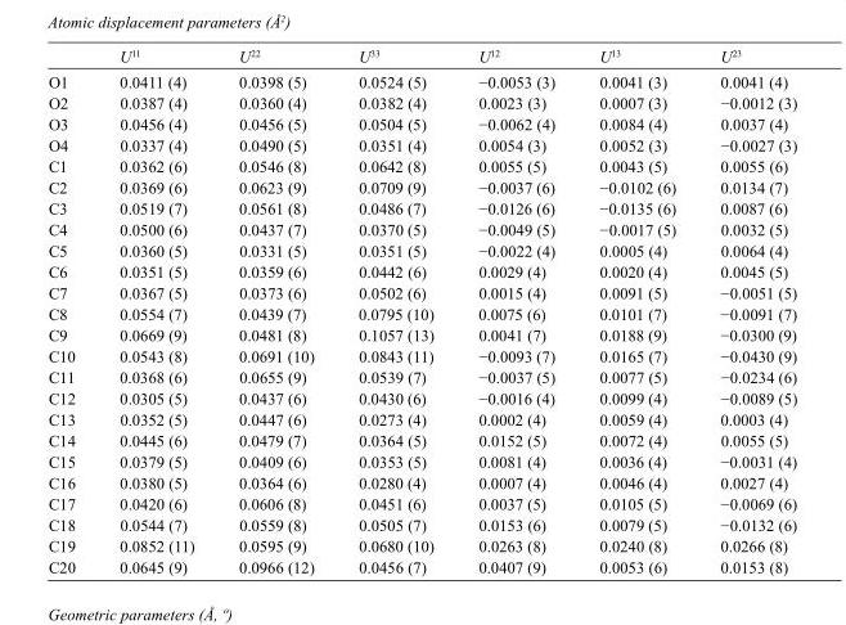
<table><thead><tr><td></td><td>U<sup>11</sup></td><td>U<sup>22</sup></td><td>U<sup>33</sup></td><td>U<sup>12</sup></td><td>U<sup>13</sup></td><td>U<sup>23</sup></td></tr></thead><tbody><tr><td>O1</td><td>0.0411 (4)</td><td>0.0398 (5)</td><td>0.0524 (5)</td><td>−0.0053 (3)</td><td>0.0041 (3)</td><td>0.0041 (4)</td></tr><tr><td>O2</td><td>0.0387 (4)</td><td>0.0360 (4)</td><td>0.0382 (4)</td><td>0.0023 (3)</td><td>0.0007 (3)</td><td>−0.0012 (3)</td></tr><tr><td>O3</td><td>0.0456 (4)</td><td>0.0456 (5)</td><td>0.0504 (5)</td><td>−0.0062 (4)</td><td>0.0084 (4)</td><td>0.0037 (4)</td></tr><tr><td>O4</td><td>0.0337 (4)</td><td>0.0490 (5)</td><td>0.0351 (4)</td><td>0.0054 (3)</td><td>0.0052 (3)</td><td>−0.0027 (3)</td></tr><tr><td>C1</td><td>0.0362 (6)</td><td>0.0546 (8)</td><td>0.0642 (8)</td><td>0.0055 (5)</td><td>0.0043 (5)</td><td>0.0055 (6)</td></tr><tr><td>C2</td><td>0.0369 (6)</td><td>0.0623 (9)</td><td>0.0709 (9)</td><td>−0.0037 (6)</td><td>−0.0102 (6)</td><td>0.0134 (7)</td></tr><tr><td>C3</td><td>0.0519 (7)</td><td>0.0561 (8)</td><td>0.0486 (7)</td><td>−0.0126 (6)</td><td>−0.0135 (6)</td><td>0.0087 (6)</td></tr><tr><td>C4</td><td>0.0500 (6)</td><td>0.0437 (7)</td><td>0.0370 (5)</td><td>−0.0049 (5)</td><td>−0.0017 (5)</td><td>0.0032 (5)</td></tr><tr><td>C5</td><td>0.0360 (5)</td><td>0.0331 (5)</td><td>0.0351 (5)</td><td>−0.0022 (4)</td><td>0.0005 (4)</td><td>0.0064 (4)</td></tr><tr><td>C6</td><td>0.0351 (5)</td><td>0.0359 (6)</td><td>0.0442 (6)</td><td>0.0029 (4)</td><td>0.0020 (4)</td><td>0.0045 (5)</td></tr><tr><td>C7</td><td>0.0367 (5)</td><td>0.0373 (6)</td><td>0.0502 (6)</td><td>0.0015 (4)</td><td>0.0091 (5)</td><td>−0.0051 (5)</td></tr><tr><td>C8</td><td>0.0554 (7)</td><td>0.0439 (7)</td><td>0.0795 (10)</td><td>0.0075 (6)</td><td>0.0101 (7)</td><td>−0.0091 (7)</td></tr><tr><td>C9</td><td>0.0669 (9)</td><td>0.0481 (8)</td><td>0.1057 (13)</td><td>0.0041 (7)</td><td>0.0188 (9)</td><td>−0.0300 (9)</td></tr><tr><td>C10</td><td>0.0543 (8)</td><td>0.0691 (10)</td><td>0.0843 (11)</td><td>−0.0093 (7)</td><td>0.0165 (7)</td><td>−0.0430 (9)</td></tr><tr><td>C11</td><td>0.0368 (6)</td><td>0.0655 (9)</td><td>0.0539 (7)</td><td>−0.0037 (5)</td><td>0.0077 (5)</td><td>−0.0234 (6)</td></tr><tr><td>C12</td><td>0.0305 (5)</td><td>0.0437 (6)</td><td>0.0430 (6)</td><td>−0.0016 (4)</td><td>0.0099 (4)</td><td>−0.0089 (5)</td></tr><tr><td>C13</td><td>0.0352 (5)</td><td>0.0447 (6)</td><td>0.0273 (4)</td><td>0.0002 (4)</td><td>0.0059 (4)</td><td>0.0003 (4)</td></tr><tr><td>C14</td><td>0.0445 (6)</td><td>0.0479 (7)</td><td>0.0364 (5)</td><td>0.0152 (5)</td><td>0.0072 (4)</td><td>0.0055 (5)</td></tr><tr><td>C15</td><td>0.0379 (5)</td><td>0.0409 (6)</td><td>0.0353 (5)</td><td>0.0081 (4)</td><td>0.0036 (4)</td><td>−0.0031 (4)</td></tr><tr><td>C16</td><td>0.0380 (5)</td><td>0.0364 (6)</td><td>0.0280 (4)</td><td>0.0007 (4)</td><td>0.0046 (4)</td><td>0.0027 (4)</td></tr><tr><td>C17</td><td>0.0420 (6)</td><td>0.0606 (8)</td><td>0.0451 (6)</td><td>0.0037 (5)</td><td>0.0105 (5)</td><td>−0.0069 (6)</td></tr><tr><td>C18</td><td>0.0544 (7)</td><td>0.0559 (8)</td><td>0.0505 (7)</td><td>0.0153 (6)</td><td>0.0079 (5)</td><td>−0.0132 (6)</td></tr><tr><td>C19</td><td>0.0852 (11)</td><td>0.0595 (9)</td><td>0.0680 (10)</td><td>0.0263 (8)</td><td>0.0240 (8)</td><td>0.0266 (8)</td></tr><tr><td>C20</td><td>0.0645 (9)</td><td>0.0966 (12)</td><td>0.0456 (7)</td><td>0.0407 (9)</td><td>0.0053 (6)</td><td>0.0153 (8)</td></tr></tbody></table>